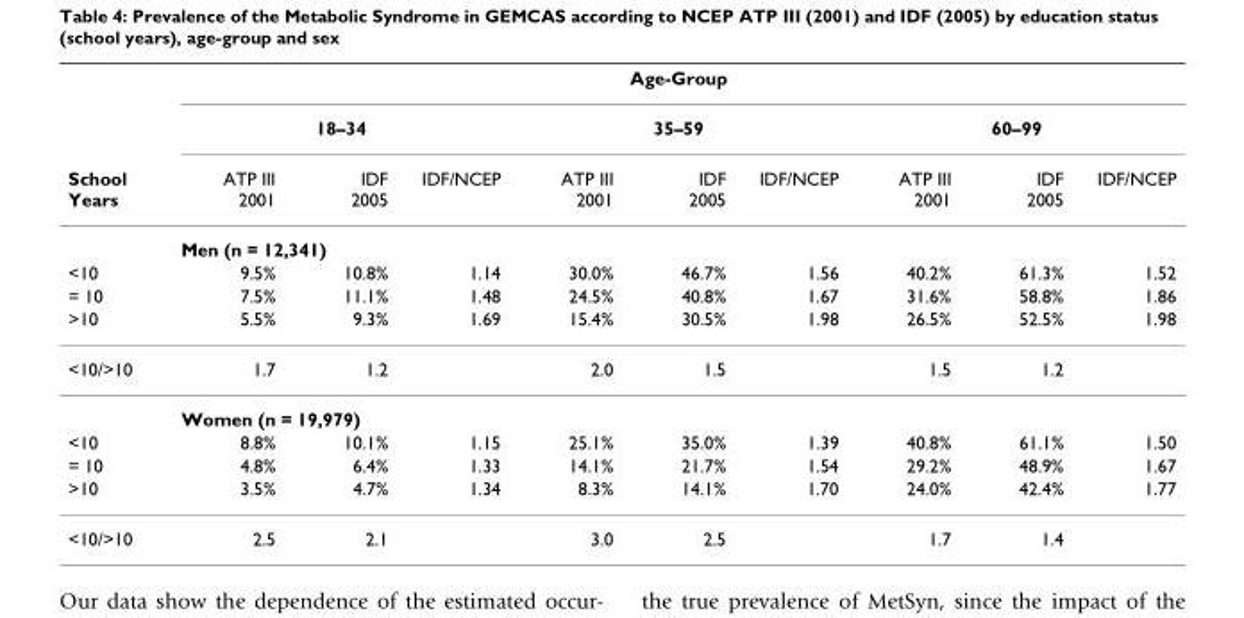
<table><thead><tr><td rowspan="3">School Years</td><td colspan="9">Age-Group</td></tr><tr><td colspan="3">18–34</td><td colspan="3">35–59</td><td colspan="3">60–99</td></tr><tr><td>ATP III 2001</td><td>IDF 2005</td><td>IDF/NCEP</td><td>ATP III 2001</td><td>IDF 2005</td><td>IDF/NCEP</td><td>ATP III 2001</td><td>IDF 2005</td><td>IDF/NCEP</td></tr></thead><tbody><tr><td></td><td colspan="9">Men (n = 12,341)</td></tr><tr><td>&lt;10</td><td>9.5%</td><td>10.8%</td><td>1.14</td><td>30.0%</td><td>46.7%</td><td>1.56</td><td>40.2%</td><td>61.3%</td><td>1.52</td></tr><tr><td>= 10</td><td>7.5%</td><td>11.1%</td><td>1.48</td><td>24.5%</td><td>40.8%</td><td>1.67</td><td>31.6%</td><td>58.8%</td><td>1.86</td></tr><tr><td>&gt;10</td><td>5.5%</td><td>9.3%</td><td>1.69</td><td>15.4%</td><td>30.5%</td><td>1.98</td><td>26.5%</td><td>52.5%</td><td>1.98</td></tr><tr><td rowspan="2">&lt;10/&gt;10</td><td>1.7</td><td>1.2</td><td></td><td>2.0</td><td>1.5</td><td></td><td>1.5</td><td>1.2</td><td></td></tr><tr><td colspan="9">Women (n = 19,979)</td></tr><tr><td>&lt;10</td><td>8.8%</td><td>10.1%</td><td>1.15</td><td>25.1%</td><td>35.0%</td><td>1.39</td><td>40.8%</td><td>61.1%</td><td>1.50</td></tr><tr><td>= 10</td><td>4.8%</td><td>6.4%</td><td>1.33</td><td>14.1%</td><td>21.7%</td><td>1.54</td><td>29.2%</td><td>48.9%</td><td>1.67</td></tr><tr><td>&gt;10</td><td>3.5%</td><td>4.7%</td><td>1.34</td><td>8.3%</td><td>14.1%</td><td>1.70</td><td>24.0%</td><td>42.4%</td><td>1.77</td></tr><tr><td>&lt;10/&gt;10</td><td>2.5</td><td>2.1</td><td></td><td>3.0</td><td>2.5</td><td></td><td>1.7</td><td>1.4</td><td></td></tr></tbody></table>